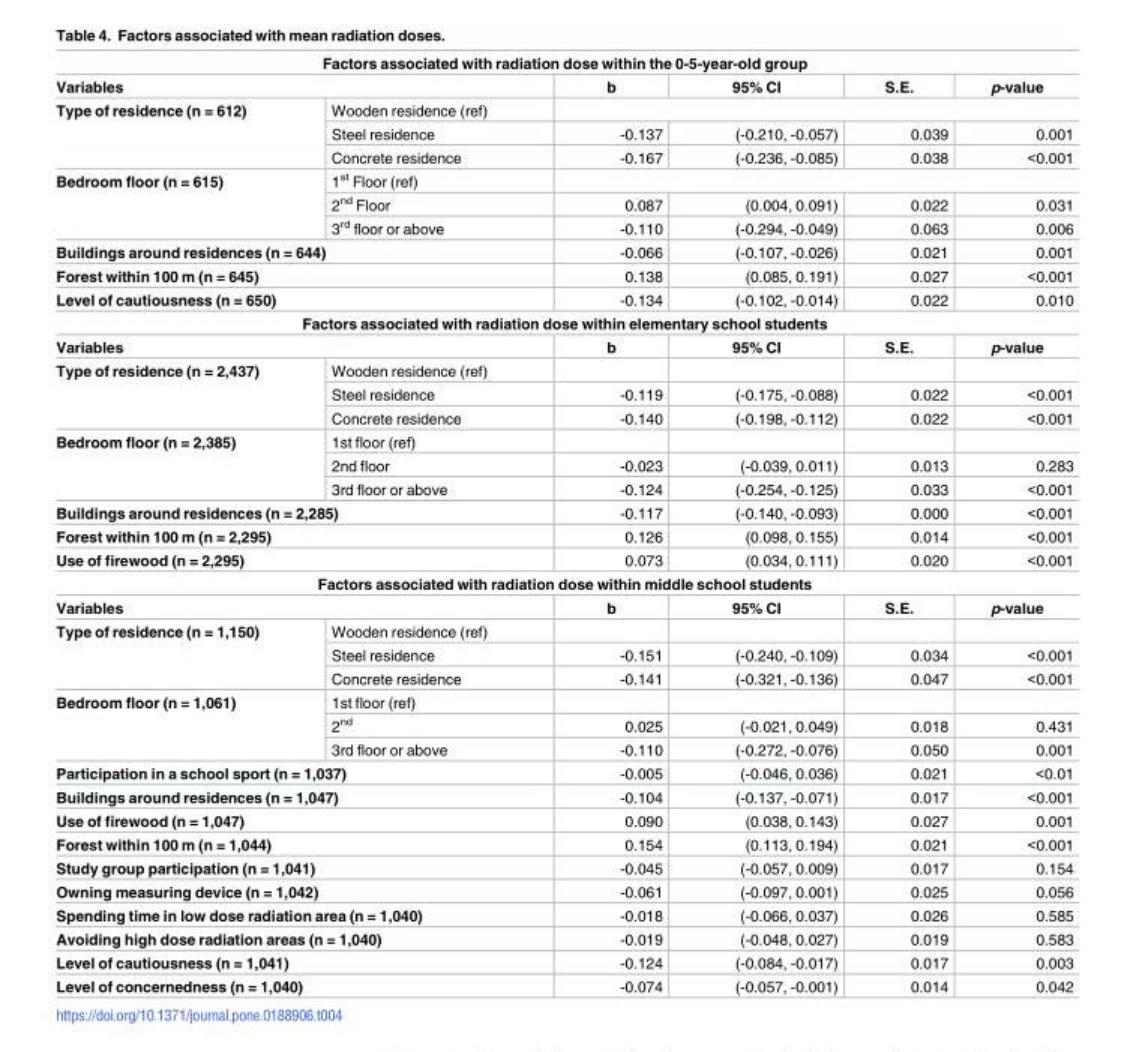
<table><tbody><tr><td colspan="6">Factors associated with radiation dose within the 0-5-year-old group</td></tr><tr><td colspan="2">Variables</td><td>b</td><td>95% CI</td><td>S.E.</td><td>p-value</td></tr><tr><td rowspan="3">Type of residence (n = 612)</td><td>Wooden residence (ref)</td><td colspan="4"></td></tr><tr><td>Steel residence</td><td>-0.137</td><td>(-0.210, -0.057)</td><td>0.039</td><td>0.001</td></tr><tr><td>Concrete residence</td><td>-0.167</td><td>(-0.236, -0.085)</td><td>0.038</td><td>&lt;0.001</td></tr><tr><td rowspan="3">Bedroom floor (n = 615)</td><td>1<sup>st</sup> Floor (ref)</td><td colspan="4"></td></tr><tr><td>2<sup>nd</sup> Floor</td><td>0.087</td><td>(0.004, 0.091)</td><td>0.022</td><td>0.031</td></tr><tr><td>3<sup>rd</sup> floor or above</td><td>-0.110</td><td>(-0.294, -0.049)</td><td>0.063</td><td>0.006</td></tr><tr><td colspan="2">Buildings around residences (n = 644)</td><td>-0.066</td><td>(-0.107, -0.026)</td><td>0.021</td><td>0.001</td></tr><tr><td colspan="2">Forest within 100 m (n = 645)</td><td>0.138</td><td>(0.085, 0.191)</td><td>0.027</td><td>&lt;0.001</td></tr><tr><td colspan="2">Level of cautiousness (n = 650)</td><td>-0.134</td><td>(-0.102, -0.014)</td><td>0.022</td><td>0.010</td></tr><tr><td colspan="6">Factors associated with radiation dose within elementary school students</td></tr><tr><td colspan="2">Variables</td><td>b</td><td>95% CI</td><td>S.E.</td><td>p-value</td></tr><tr><td rowspan="3">Type of residence (n = 2,437)</td><td>Wooden residence (ref)</td><td></td><td></td><td></td><td></td></tr><tr><td>Steel residence</td><td>-0.119</td><td>(-0.175, -0.088)</td><td>0.022</td><td>&lt;0.001</td></tr><tr><td>Concrete residence</td><td>-0.140</td><td>(-0.198, -0.112)</td><td>0.022</td><td>&lt;0.001</td></tr><tr><td rowspan="3">Bedroom floor (n = 2,385)</td><td>1st floor (ref)</td><td></td><td></td><td></td><td></td></tr><tr><td>2nd floor</td><td>-0.023</td><td>(-0.039, 0.011)</td><td>0.013</td><td>0.283</td></tr><tr><td>3rd floor or above</td><td>-0.124</td><td>(-0.254, -0.125)</td><td>0.033</td><td>&lt;0.001</td></tr><tr><td colspan="2">Buildings around residences (n = 2,285)</td><td>-0.117</td><td>(-0.140, -0.093)</td><td>0.000</td><td>&lt;0.001</td></tr><tr><td colspan="2">Forest within 100 m (n = 2,295)</td><td>0.126</td><td>(0.098, 0.155)</td><td>0.014</td><td>&lt;0.001</td></tr><tr><td colspan="2">Use of firewood (n = 2,295)</td><td>0.073</td><td>(0.034, 0.111)</td><td>0.020</td><td>&lt;0.001</td></tr><tr><td colspan="6">Factors associated with radiation dose within middle school students</td></tr><tr><td colspan="2">Variables</td><td>b</td><td>95% CI</td><td>S.E.</td><td>p-value</td></tr><tr><td rowspan="3">Type of residence (n = 1,150)</td><td>Wooden residence (ref)</td><td></td><td></td><td></td><td></td></tr><tr><td>Steel residence</td><td>-0.151</td><td>(-0.240, -0.109)</td><td>0.034</td><td>&lt;0.001</td></tr><tr><td>Concrete residence</td><td>-0.141</td><td>(-0.321, -0.136)</td><td>0.047</td><td>&lt;0.001</td></tr><tr><td rowspan="3">Bedroom floor (n = 1,061)</td><td>1st floor (ref)</td><td></td><td></td><td></td><td></td></tr><tr><td>2<sup>nd</sup></td><td>0.025</td><td>(-0.021, 0.049)</td><td>0.018</td><td>0.431</td></tr><tr><td>3rd floor or above</td><td>-0.110</td><td>(-0.272, -0.076)</td><td>0.050</td><td>0.001</td></tr><tr><td colspan="2">Participation in a school sport (n = 1,037)</td><td>-0.005</td><td>(-0.046, 0.036)</td><td>0.021</td><td>&lt;0.01</td></tr><tr><td colspan="2">Buildings around residences (n = 1,047)</td><td>-0.104</td><td>(-0.137, -0.071)</td><td>0.017</td><td>&lt;0.001</td></tr><tr><td colspan="2">Use of firewood (n = 1,047)</td><td>0.090</td><td>(0.038, 0.143)</td><td>0.027</td><td>0.001</td></tr><tr><td colspan="2">Forest within 100 m (n = 1,044)</td><td>0.154</td><td>(0.113, 0.194)</td><td>0.021</td><td>&lt;0.001</td></tr><tr><td colspan="2">Study group participation (n = 1,041)</td><td>-0.045</td><td>(-0.057, 0.009)</td><td>0.017</td><td>0.154</td></tr><tr><td colspan="2">Owning measuring device (n = 1,042)</td><td>-0.061</td><td>(-0.097, 0.001)</td><td>0.025</td><td>0.056</td></tr><tr><td colspan="2">Spending time in low dose radiation area (n = 1,040)</td><td>-0.018</td><td>(-0.066, 0.037)</td><td>0.026</td><td>0.585</td></tr><tr><td colspan="2">Avoiding high dose radiation areas (n = 1,040)</td><td>-0.019</td><td>(-0.048, 0.027)</td><td>0.019</td><td>0.583</td></tr><tr><td colspan="2">Level of cautiousness (n = 1,041)</td><td>-0.124</td><td>(-0.084, -0.017)</td><td>0.017</td><td>0.003</td></tr><tr><td colspan="2">Level of concernedness (n = 1,040)</td><td>-0.074</td><td>(-0.057, -0.001)</td><td>0.014</td><td>0.042</td></tr></tbody></table>